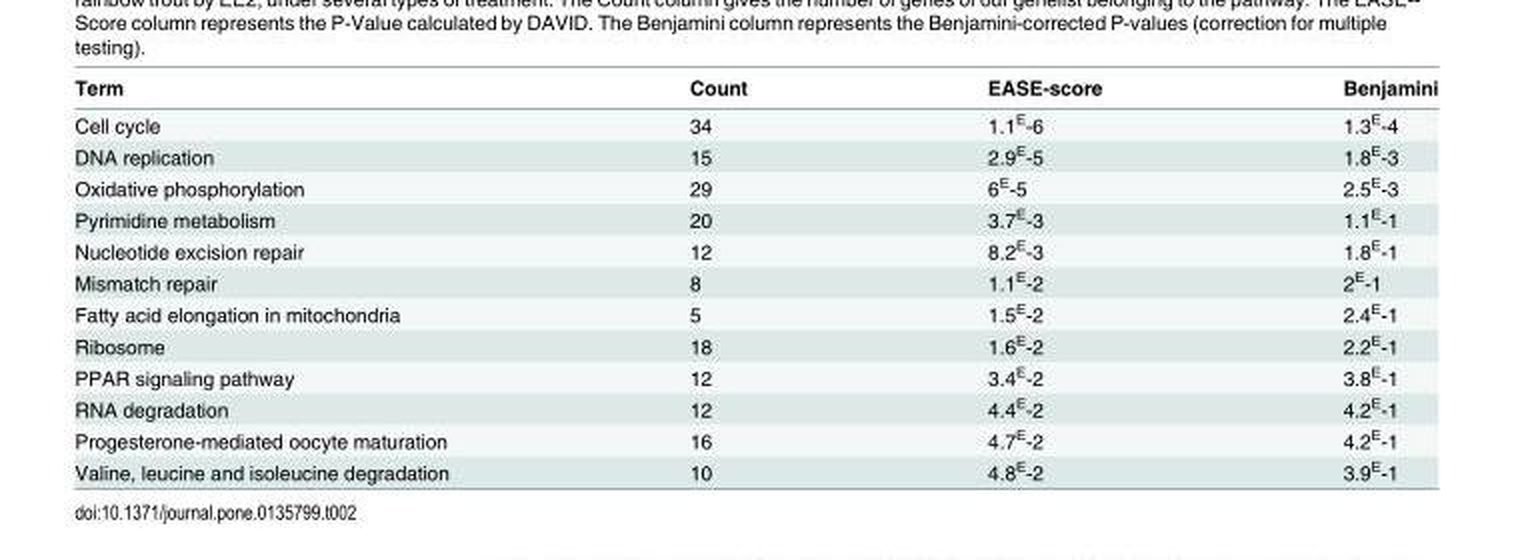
<table><thead><tr><td>Term</td><td>Count</td><td>EASE-score</td><td>Benjamini</td></tr></thead><tbody><tr><td>Cell cycle</td><td>34</td><td>1.1<sup>E</sup>-6</td><td>1.3<sup>E</sup>-4</td></tr><tr><td>DNA replication</td><td>15</td><td>2.9<sup>E</sup>-5</td><td>1.8<sup>E</sup>-3</td></tr><tr><td>Oxidative phosphorylation</td><td>29</td><td>6<sup>E</sup>-5</td><td>2.5<sup>E</sup>-3</td></tr><tr><td>Pyrimidine metabolism</td><td>20</td><td>3.7<sup>E</sup>-3</td><td>1.1<sup>E</sup>-1</td></tr><tr><td>Nucleotide excision repair</td><td>12</td><td>8.2<sup>E</sup>-3</td><td>1.8<sup>E</sup>-1</td></tr><tr><td>Mismatch repair</td><td>8</td><td>1.1<sup>E</sup>-2</td><td>2<sup>E</sup>-1</td></tr><tr><td>Fatty acid elongation in mitochondria</td><td>5</td><td>1.5<sup>E</sup>-2</td><td>2.4<sup>E</sup>-1</td></tr><tr><td>Ribosome</td><td>18</td><td>1.6<sup>E</sup>-2</td><td>2.2<sup>E</sup>-1</td></tr><tr><td>PPAR signaling pathway</td><td>12</td><td>3.4<sup>E</sup>-2</td><td>3.8<sup>E</sup>-1</td></tr><tr><td>RNA degradation</td><td>12</td><td>4.4<sup>E</sup>-2</td><td>4.2<sup>E</sup>-1</td></tr><tr><td>Progesterone-mediated oocyte maturation</td><td>16</td><td>4.7<sup>E</sup>-2</td><td>4.2<sup>E</sup>-1</td></tr><tr><td>Valine, leucine and isoleucine degradation</td><td>10</td><td>4.8<sup>E</sup>-2</td><td>3.9<sup>E</sup>-1</td></tr></tbody></table>